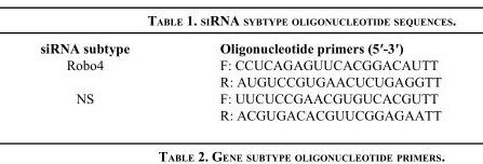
<table><thead><tr><td>siRNA subtype</td><td>Oligonucleotide primers (5′-3′)</td></tr></thead><tbody><tr><td rowspan="2">Robo4</td><td>F: CCUCAGAGUUCACGGACAUTT</td></tr><tr><td>R: AUGUCCGUGAACUCUGAGGTT</td></tr><tr><td rowspan="2">NS</td><td>F: UUCUCCGAACGUGUCACGUTT</td></tr><tr><td>R: ACGUGACACGUUCGGAGAATT</td></tr></tbody></table>